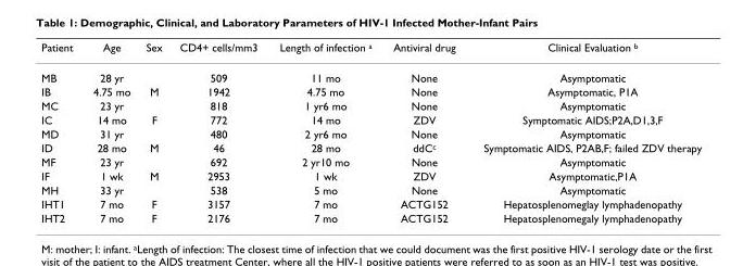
<table><thead><tr><td>Patient</td><td>Age</td><td>Sex</td><td>CD4+ cells/mm3</td><td>Length of infection <sup>a</sup></td><td>Antiviral drug</td><td>Clinical Evaluation <sup>b</sup></td></tr></thead><tbody><tr><td>MB</td><td>28 yr</td><td></td><td>509</td><td>11 mo</td><td>None</td><td>Asymptomatic</td></tr><tr><td>IB</td><td>4.75 mo</td><td>M</td><td>1942</td><td>4.75 mo</td><td>None</td><td>Asymptomatic, P1A</td></tr><tr><td>MC</td><td>23 yr</td><td></td><td>818</td><td>1 yr6 mo</td><td>None</td><td>Asymptomatic</td></tr><tr><td>IC</td><td>14 mo</td><td>F</td><td>772</td><td>14 mo</td><td>ZDV</td><td>Symptomatic AIDS;P2A,D1,3,F</td></tr><tr><td>MD</td><td>31 yr</td><td></td><td>480</td><td>2 yr6 mo</td><td>None</td><td>Asymptomatic</td></tr><tr><td>ID</td><td>28 mo</td><td>M</td><td>46</td><td>28 mo</td><td>ddC<sup>c</sup></td><td>Symptomatic AIDS, P2AB,F; failed ZDV therapy</td></tr><tr><td>MF</td><td>23 yr</td><td></td><td>692</td><td>2 yr10 mo</td><td>None</td><td>Asymptomatic</td></tr><tr><td>IF</td><td>1 wk</td><td>M</td><td>2953</td><td>1 wk</td><td>ZDV</td><td>Asymptomatic,P1A</td></tr><tr><td>MH</td><td>33 yr</td><td></td><td>538</td><td>5 mo</td><td>None</td><td>Asymptomatic</td></tr><tr><td>IHT1</td><td>7 mo</td><td>F</td><td>3157</td><td>7 mo</td><td>ACTG152</td><td>Hepatosplenomeglay lymphadenopathy</td></tr><tr><td>IHT2</td><td>7 mo</td><td>F</td><td>2176</td><td>7 mo</td><td>ACTG152</td><td>Hepatosplenomegaly lymphadenopathy</td></tr></tbody></table>